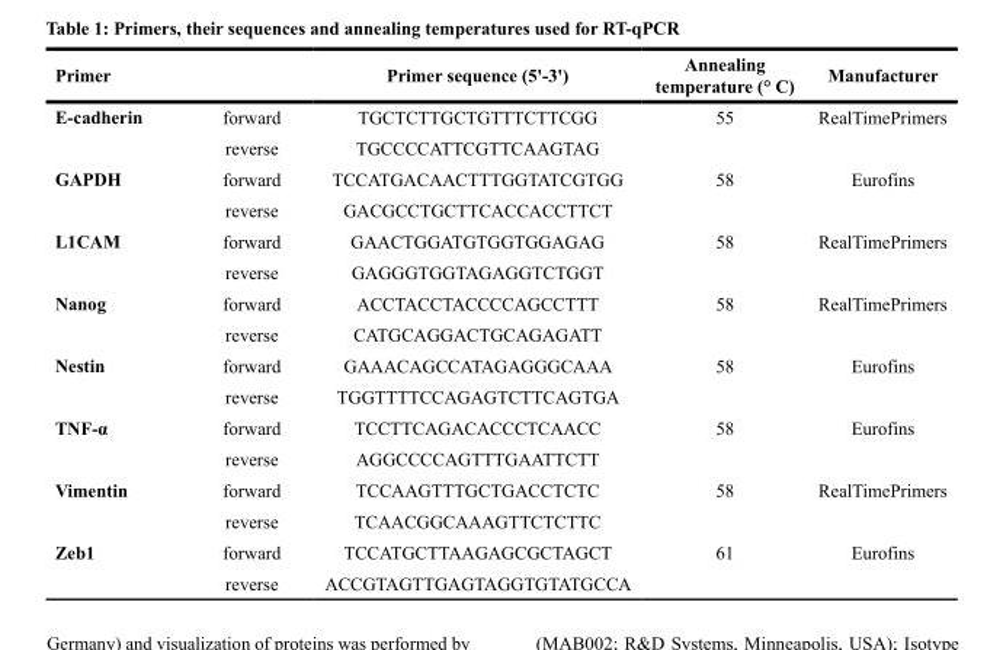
<table><thead><tr><td>Primer</td><td></td><td>Primer sequence (5&#x27;-3&#x27;)</td><td>Annealing temperature (° C)</td><td>Manufacturer</td></tr></thead><tbody><tr><td rowspan="2">E-cadherin</td><td>forward</td><td>TGCTCTTGCTGTTTCTTCGG</td><td>55</td><td>RealTimePrimers</td></tr><tr><td>reverse</td><td>TGCCCCATTCGTTCAAGTAG</td><td></td><td></td></tr><tr><td rowspan="2">GAPDH</td><td>forward</td><td>TCCATGACAACTTTGGTATCGTGG</td><td>58</td><td>Eurofins</td></tr><tr><td>reverse</td><td>GACGCCTGCTTCACCACCTTCT</td><td></td><td></td></tr><tr><td rowspan="2">L1CAM</td><td>forward</td><td>GAACTGGATGTGGTGGAGAG</td><td>58</td><td>RealTimePrimers</td></tr><tr><td>reverse</td><td>GAGGGTGGTAGAGGTCTGGT</td><td></td><td></td></tr><tr><td rowspan="2">Nanog</td><td>forward</td><td>ACCTACCTACCCCAGCCTTT</td><td>58</td><td>RealTimePrimers</td></tr><tr><td>reverse</td><td>CATGCAGGACTGCAGAGATT</td><td></td><td></td></tr><tr><td rowspan="2">Nestin</td><td>forward</td><td>GAAACAGCCATAGAGGGCAAA</td><td>58</td><td>Eurofins</td></tr><tr><td>reverse</td><td>TGGTTTTCCAGAGTCTTCAGTGA</td><td></td><td></td></tr><tr><td rowspan="2">TNF-α</td><td>forward</td><td>TCCTTCAGACACCCTCAACC</td><td>58</td><td>Eurofins</td></tr><tr><td>reverse</td><td>AGGCCCCAGTTTGAATTCTT</td><td></td><td></td></tr><tr><td rowspan="2">Vimentin</td><td>forward</td><td>TCCAAGTTTGCTGACCTCTC</td><td>58</td><td>RealTimePrimers</td></tr><tr><td>reverse</td><td>TCAACGGCAAAGTTCTCTTC</td><td></td><td></td></tr><tr><td rowspan="2">Zeb1</td><td>forward</td><td>TCCATGCTTAAGAGCGCTAGCT</td><td>61</td><td>Eurofins</td></tr><tr><td>reverse</td><td>ACCGTAGTTGAGTAGGTGTATGCCA</td><td></td><td></td></tr></tbody></table>